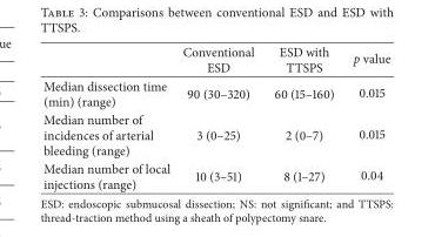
<table><thead><tr><td></td><td>Conventional ESD</td><td>ESD with TTSPS</td><td>p value</td></tr></thead><tbody><tr><td>Median dissection time (min) (range)</td><td>90 (30–320)</td><td>60 (15–160)</td><td>0.015</td></tr><tr><td>Median number of incidences of arterial bleeding (range)</td><td>3 (0–25)</td><td>2 (0–7)</td><td>0.015</td></tr><tr><td>Median number of local injections (range)</td><td>10 (3–51)</td><td>8 (1–27)</td><td>0.04</td></tr></tbody></table>